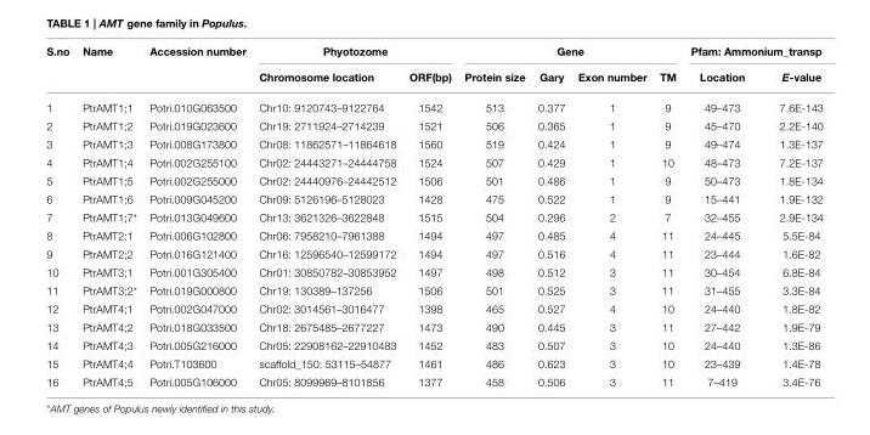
<table><thead><tr><td rowspan="2">S.no</td><td rowspan="2">Name</td><td rowspan="2">Accession number</td><td colspan="2">Phyotozome</td><td colspan="4">Gene</td><td colspan="2">Pfam: Ammonium_transp</td></tr><tr><td>Chromosome location</td><td>ORF(bp)</td><td>Protein size</td><td>Gary</td><td>Exon number</td><td>TM</td><td>Location</td><td>E-value</td></tr></thead><tbody><tr><td>1</td><td>PtrAMT1;1</td><td>Potri.010G063500</td><td>Chr10: 9120743–9122764</td><td>1542</td><td>513</td><td>0.377</td><td>1</td><td>9</td><td>49–473</td><td>7.6E-143</td></tr><tr><td>2</td><td>PtrAMT1;2</td><td>Potri.019G023600</td><td>Chr19: 2711924–2714239</td><td>1521</td><td>506</td><td>0.365</td><td>1</td><td>9</td><td>45–470</td><td>2.2E-140</td></tr><tr><td>3</td><td>PtrAMT1;3</td><td>Potri.008G173800</td><td>Chr08: 11862571–11864618</td><td>1560</td><td>519</td><td>0.424</td><td>1</td><td>9</td><td>49–474</td><td>1.3E-137</td></tr><tr><td>4</td><td>PtrAMT1;4</td><td>Potri.002G255100</td><td>Chr02: 24443271–24444758</td><td>1524</td><td>507</td><td>0.429</td><td>1</td><td>10</td><td>48–473</td><td>7.2E-137</td></tr><tr><td>5</td><td>PtrAMT1;5</td><td>Potri.002G255000</td><td>Chr02: 24440976–24442512</td><td>1506</td><td>501</td><td>0.486</td><td>1</td><td>9</td><td>50–473</td><td>1.8E-134</td></tr><tr><td>6</td><td>PtrAMT1;6</td><td>Potri.009G045200</td><td>Chr09: 5126196–5128023</td><td>1428</td><td>475</td><td>0.522</td><td>1</td><td>9</td><td>15–441</td><td>1.9E-132</td></tr><tr><td>7</td><td>PtrAMT1;7*</td><td>Potri.013G049600</td><td>Chr13: 3621326–3622848</td><td>1515</td><td>504</td><td>0.296</td><td>2</td><td>7</td><td>32–455</td><td>2.9E-134</td></tr><tr><td>8</td><td>PtrAMT2;1</td><td>Potri.006G102800</td><td>Chr06: 7958210–7961388</td><td>1494</td><td>497</td><td>0.485</td><td>4</td><td>11</td><td>24–445</td><td>5.5E-84</td></tr><tr><td>9</td><td>PtrAMT2;2</td><td>Potri.016G121400</td><td>Chr16: 12596540–12599172</td><td>1494</td><td>497</td><td>0.516</td><td>4</td><td>11</td><td>23–444</td><td>1.6E-82</td></tr><tr><td>10</td><td>PtrAMT3;1</td><td>Potri.001G305400</td><td>Chr01: 30850782–30853952</td><td>1497</td><td>498</td><td>0.512</td><td>3</td><td>11</td><td>30–454</td><td>6.8E-84</td></tr><tr><td>11</td><td>PtrAMT3;2*</td><td>Potri.019G000800</td><td>Chr19: 130389–137256</td><td>1506</td><td>501</td><td>0.525</td><td>3</td><td>11</td><td>31–455</td><td>3.3E-84</td></tr><tr><td>12</td><td>PtrAMT4;1</td><td>Potri.002G047000</td><td>Chr02: 3014561–3016477</td><td>1398</td><td>465</td><td>0.527</td><td>4</td><td>10</td><td>24–440</td><td>1.8E-82</td></tr><tr><td>13</td><td>PtrAMT4;2</td><td>Potri.018G033500</td><td>Chr18: 2675485–2677227</td><td>1473</td><td>490</td><td>0.445</td><td>3</td><td>11</td><td>27–442</td><td>1.9E-79</td></tr><tr><td>14</td><td>PtrAMT4;3</td><td>Potri.005G216000</td><td>Chr05: 22908162–22910483</td><td>1452</td><td>483</td><td>0.507</td><td>3</td><td>10</td><td>24–440</td><td>1.3E-86</td></tr><tr><td>15</td><td>PtrAMT4;4</td><td>Potri.T103600</td><td>scaffold_150: 53115–54877</td><td>1461</td><td>486</td><td>0.623</td><td>3</td><td>10</td><td>23–439</td><td>1.4E-78</td></tr><tr><td>16</td><td>PtrAMT4;5</td><td>Potri.005G106000</td><td>Chr05: 8099969–8101856</td><td>1377</td><td>458</td><td>0.506</td><td>3</td><td>11</td><td>7–419</td><td>3.4E-76</td></tr></tbody></table>